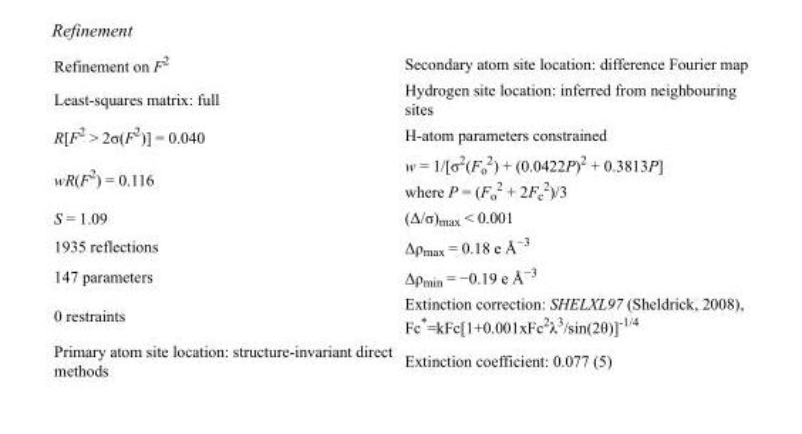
<table><tbody><tr><td>Refinement on F<sup>2</sup></td><td>Secondary atom site location: difference Fourier map</td></tr><tr><td>Least-squares matrix: full</td><td>Hydrogen site location: inferred from neighbouring sites</td></tr><tr><td>R[F<sup>2</sup> &gt; 2σ(F<sup>2</sup>)] = 0.040</td><td>H-atom parameters constrained</td></tr><tr><td>wR(F<sup>2</sup>) = 0.116</td><td>w = 1/[σ<sup>2</sup>(F<sub>o</sub> <sup>2</sup>) + (0.0422P)<sup>2</sup> + 0.3813P] where P = (F<sub>o</sub> <sup>2</sup> + 2F<sub>c</sub> <sup>2</sup>)/3</td></tr><tr><td>S = 1.09</td><td>(Δ/σ)<sub>max</sub> &lt; 0.001</td></tr><tr><td>1935 reflections</td><td>Δρ<sub>max</sub> = 0.18 e Å<sup>−3</sup></td></tr><tr><td>147 parameters</td><td>Δρ<sub>min</sub> = −0.19 e Å<sup>−3</sup></td></tr><tr><td>0 restraints</td><td>Extinction correction: SHELXL97 (Sheldrick, 2008), Fc*=kFc[1+0.001xFc<sup>2</sup>λ<sup>3</sup>/sin(2θ)]<sup>-1/4</sup></td></tr><tr><td>Primary atom site location: structure-invariant direct methods</td><td>Extinction coefficient: 0.077 (5)</td></tr></tbody></table>